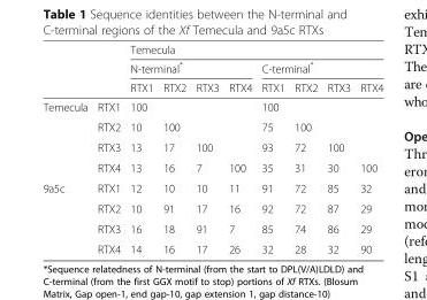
<table><thead><tr><td rowspan="3"></td><td rowspan="3"></td><td colspan="8">Temecula</td></tr><tr><td colspan="4">N-terminal*</td><td colspan="4">C-terminal*</td></tr><tr><td>RTX1</td><td>RTX2</td><td>RTX3</td><td>RTX4</td><td>RTX1</td><td>RTX2</td><td>RTX3</td><td>RTX4</td></tr></thead><tbody><tr><td rowspan="4">Temecula</td><td>RTX1</td><td>100</td><td></td><td></td><td></td><td>100</td><td></td><td></td><td></td></tr><tr><td>RTX2</td><td>10</td><td>100</td><td></td><td></td><td>75</td><td>100</td><td></td><td></td></tr><tr><td>RTX3</td><td>13</td><td>17</td><td>100</td><td></td><td>93</td><td>72</td><td>100</td><td></td></tr><tr><td>RTX4</td><td>13</td><td>16</td><td>7</td><td>100</td><td>35</td><td>31</td><td>30</td><td>100</td></tr><tr><td rowspan="4">9a5c</td><td>RTX1</td><td>12</td><td>10</td><td>10</td><td>11</td><td>91</td><td>72</td><td>85</td><td>32</td></tr><tr><td>RTX2</td><td>10</td><td>91</td><td>17</td><td>16</td><td>92</td><td>72</td><td>87</td><td>29</td></tr><tr><td>RTX3</td><td>16</td><td>18</td><td>91</td><td>7</td><td>85</td><td>74</td><td>86</td><td>29</td></tr><tr><td>RTX4</td><td>14</td><td>16</td><td>17</td><td>26</td><td>32</td><td>28</td><td>32</td><td>90</td></tr></tbody></table>